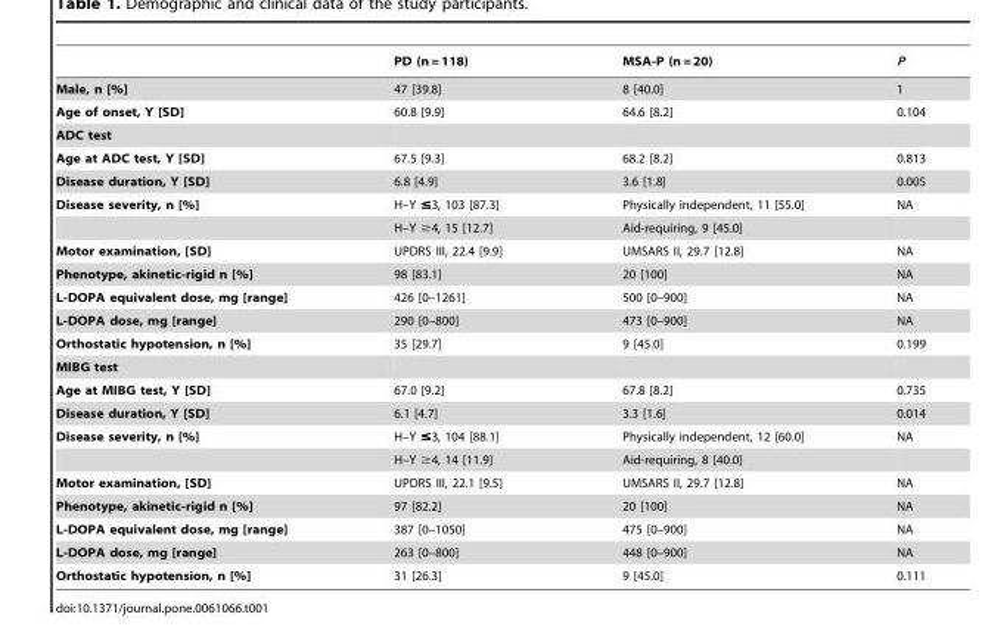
<table><thead><tr><td></td><td>PD (n = 118)</td><td>MSA-P (n = 20)</td><td>P</td></tr></thead><tbody><tr><td>Male, n [%]</td><td>47 [39.8]</td><td>8 [40.0]</td><td>1</td></tr><tr><td>Age of onset, Y [SD]</td><td>60.8 [9.9]</td><td>64.6 [8.2]</td><td>0.104</td></tr><tr><td colspan="4">ADC test</td></tr><tr><td>Age at ADC test, Y [SD]</td><td>67.5 [9.3]</td><td>68.2 [8.2]</td><td>0.813</td></tr><tr><td>Disease duration, Y [SD]</td><td>6.8 [4.9]</td><td>3.6 [1.8]</td><td>0.005</td></tr><tr><td rowspan="2">Disease severity, n [%]</td><td>H–Y ≤3, 103 [87.3]</td><td>Physically independent, 11 [55.0]</td><td>NA</td></tr><tr><td>H–Y ≥4, 15 [12.7]</td><td>Aid-requiring, 9 [45.0]</td><td></td></tr><tr><td>Motor examination, [SD]</td><td>UPDRS III, 22.4 [9.9]</td><td>UMSARS II, 29.7 [12.8]</td><td>NA</td></tr><tr><td>Phenotype, akinetic-rigid n [%]</td><td>98 [83.1]</td><td>20 [100]</td><td>NA</td></tr><tr><td>L-DOPA equivalent dose, mg [range]</td><td>426 [0–1261]</td><td>500 [0–900]</td><td>NA</td></tr><tr><td>L-DOPA dose, mg [range]</td><td>290 [0–800]</td><td>473 [0–900]</td><td>NA</td></tr><tr><td>Orthostatic hypotension, n [%]</td><td>35 [29.7]</td><td>9 [45.0]</td><td>0.199</td></tr><tr><td colspan="4">MIBG test</td></tr><tr><td>Age at MIBG test, Y [SD]</td><td>67.0 [9.2]</td><td>67.8 [8.2]</td><td>0.735</td></tr><tr><td>Disease duration, Y [SD]</td><td>6.1 [4.7]</td><td>3.3 [1.6]</td><td>0.014</td></tr><tr><td rowspan="2">Disease severity, n [%]</td><td>H–Y ≤3, 104 [88.1]</td><td>Physically independent, 12 [60.0]</td><td>NA</td></tr><tr><td>H–Y ≥4, 14 [11.9]</td><td>Aid-requiring, 8 [40.0]</td><td></td></tr><tr><td>Motor examination, [SD]</td><td>UPDRS III, 22.1 [9.5]</td><td>UMSARS II, 29.7 [12.8]</td><td>NA</td></tr><tr><td>Phenotype, akinetic-rigid n [%]</td><td>97 [82.2]</td><td>20 [100]</td><td>NA</td></tr><tr><td>L-DOPA equivalent dose, mg [range]</td><td>387 [0–1050]</td><td>475 [0–900]</td><td>NA</td></tr><tr><td>L-DOPA dose, mg [range]</td><td>263 [0–800]</td><td>448 [0–900]</td><td>NA</td></tr><tr><td>Orthostatic hypotension, n [%]</td><td>31 [26.3]</td><td>9 [45.0]</td><td>0.111</td></tr></tbody></table>